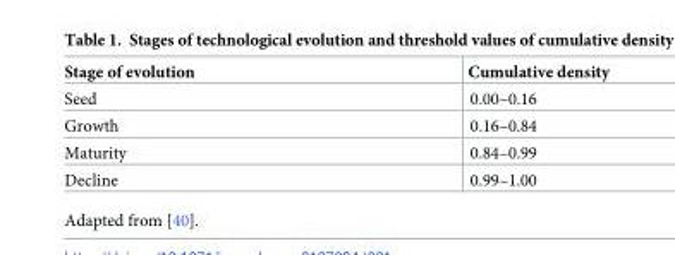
<table><thead><tr><td>Stage of evolution</td><td>Cumulative density</td></tr></thead><tbody><tr><td>Seed</td><td>0.00–0.16</td></tr><tr><td>Growth</td><td>0.16–0.84</td></tr><tr><td>Maturity</td><td>0.84–0.99</td></tr><tr><td>Decline</td><td>0.99–1.00</td></tr></tbody></table>